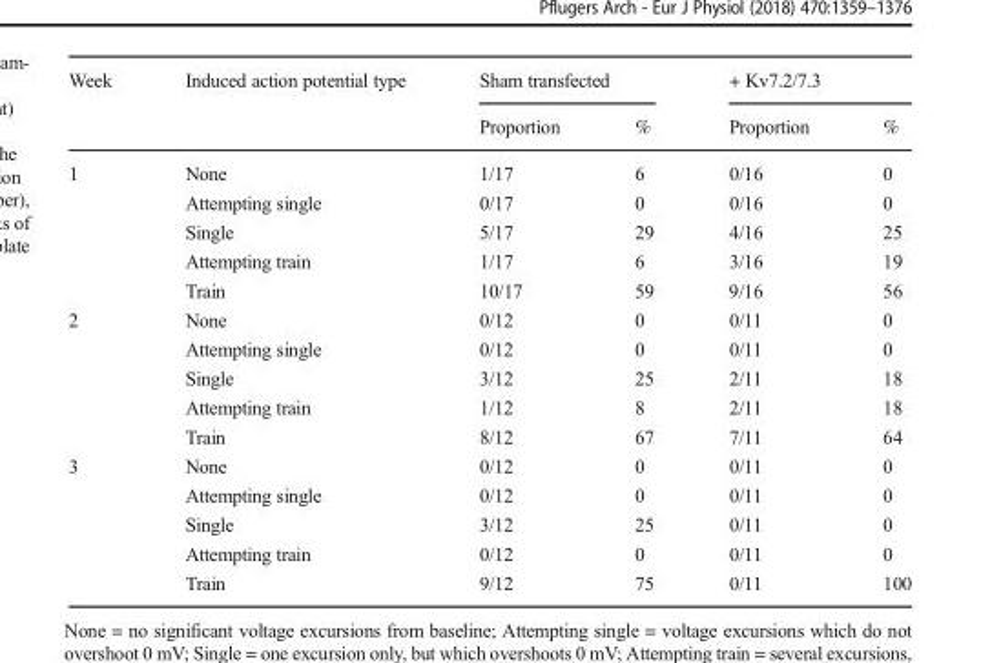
<table><thead><tr><td rowspan="2">Week</td><td rowspan="2">Induced action potential type</td><td colspan="2">Sham transfected</td><td colspan="2">+ Kv7.2/7.3</td></tr><tr><td>Proportion</td><td>%</td><td>Proportion</td><td>%</td></tr></thead><tbody><tr><td rowspan="5">1</td><td>None</td><td>1/17</td><td>6</td><td>0/16</td><td>0</td></tr><tr><td>Attempting single</td><td>0/17</td><td>0</td><td>0/16</td><td>0</td></tr><tr><td>Single</td><td>5/17</td><td>29</td><td>4/16</td><td>25</td></tr><tr><td>Attempting train</td><td>1/17</td><td>6</td><td>3/16</td><td>19</td></tr><tr><td>Train</td><td>10/17</td><td>59</td><td>9/16</td><td>56</td></tr><tr><td rowspan="5">2</td><td>None</td><td>0/12</td><td>0</td><td>0/11</td><td>0</td></tr><tr><td>Attempting single</td><td>0/12</td><td>0</td><td>0/11</td><td>0</td></tr><tr><td>Single</td><td>3/12</td><td>25</td><td>2/11</td><td>18</td></tr><tr><td>Attempting train</td><td>1/12</td><td>8</td><td>2/11</td><td>18</td></tr><tr><td>Train</td><td>8/12</td><td>67</td><td>7/11</td><td>64</td></tr><tr><td rowspan="5">3</td><td>None</td><td>0/12</td><td>0</td><td>0/11</td><td>0</td></tr><tr><td>Attempting single</td><td>0/12</td><td>0</td><td>0/11</td><td>0</td></tr><tr><td>Single</td><td>3/12</td><td>25</td><td>0/11</td><td>0</td></tr><tr><td>Attempting train</td><td>0/12</td><td>0</td><td>0/11</td><td>0</td></tr><tr><td>Train</td><td>9/12</td><td>75</td><td>0/11</td><td>100</td></tr></tbody></table>